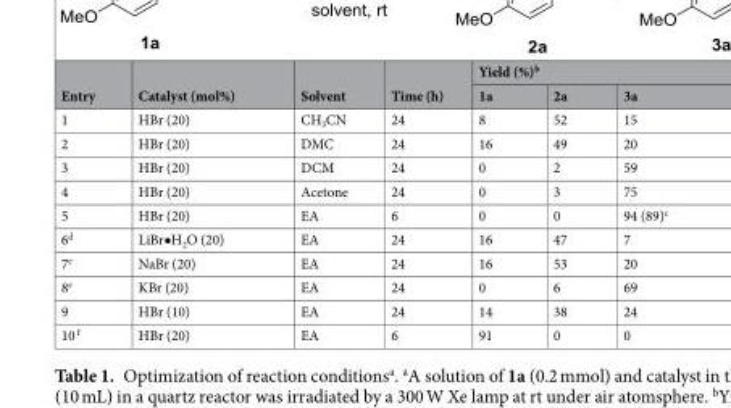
<table><thead><tr><td rowspan="2">Entry</td><td rowspan="2">Catalyst (mol%)</td><td rowspan="2">Solvent</td><td rowspan="2">Time (h)</td><td colspan="3">Yield (%)<sup>b</sup></td></tr><tr><td>1a</td><td>2a</td><td>3a</td></tr></thead><tbody><tr><td>1</td><td>HBr (20)</td><td>CH<sub>3</sub>CN</td><td>24</td><td>8</td><td>52</td><td>15</td></tr><tr><td>2</td><td>HBr (20)</td><td>DMC</td><td>24</td><td>16</td><td>49</td><td>20</td></tr><tr><td>3</td><td>HBr (20)</td><td>DCM</td><td>24</td><td>0</td><td>2</td><td>59</td></tr><tr><td>4</td><td>HBr (20)</td><td>Acetone</td><td>24</td><td>0</td><td>3</td><td>75</td></tr><tr><td>5</td><td>HBr (20)</td><td>EA</td><td>6</td><td>0</td><td>0</td><td>94 (89)<sup>c</sup></td></tr><tr><td>6<sup>d</sup></td><td>LiBr•H<sub>2</sub>O (20)</td><td>EA</td><td>24</td><td>16</td><td>47</td><td>7</td></tr><tr><td>7<sup>e</sup></td><td>NaBr (20)</td><td>EA</td><td>24</td><td>16</td><td>53</td><td>20</td></tr><tr><td>8<sup>e</sup></td><td>KBr (20)</td><td>EA</td><td>24</td><td>0</td><td>6</td><td>69</td></tr><tr><td>9</td><td>HBr (10)</td><td>EA</td><td>24</td><td>14</td><td>38</td><td>24</td></tr><tr><td>10 <sup>f</sup></td><td>HBr (20)</td><td>EA</td><td>6</td><td>91</td><td>0</td><td>0</td></tr></tbody></table>